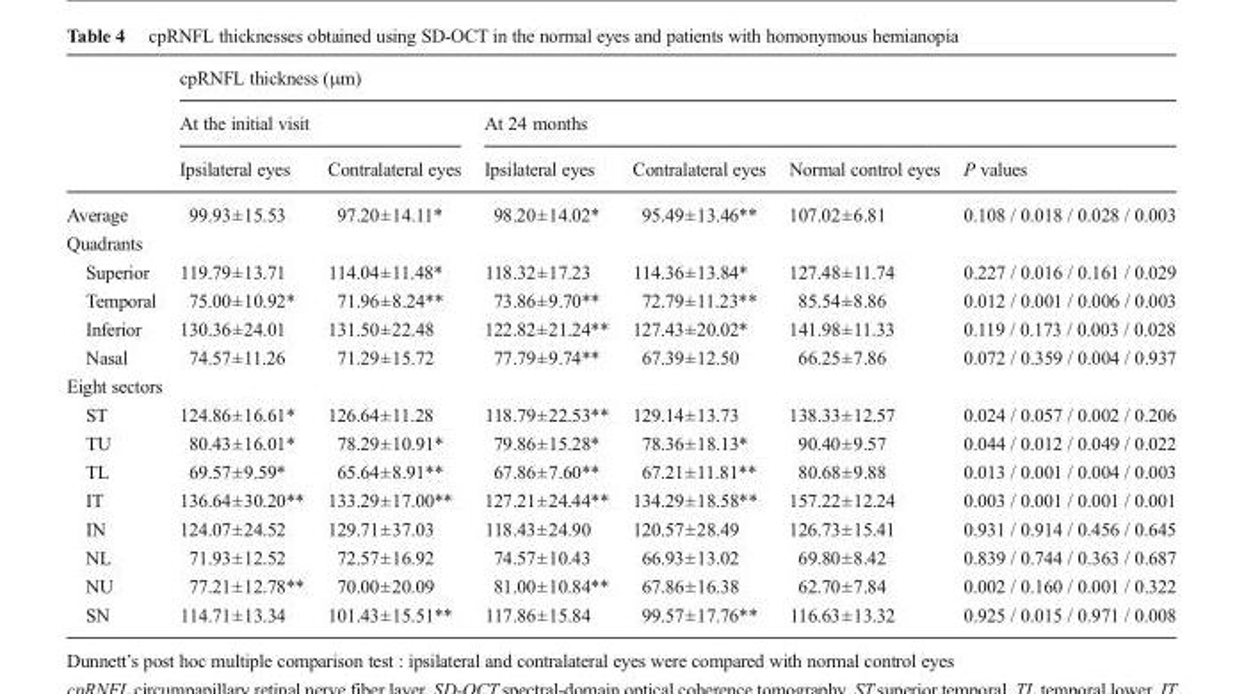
<table><thead><tr><td rowspan="3"></td><td colspan="6">cpRNFL thickness (μm)</td></tr><tr><td colspan="2">At the initial visit</td><td colspan="4">At 24 months</td></tr><tr><td>Ipsilateral eyes</td><td>Contralateral eyes</td><td>Ipsilateral eyes</td><td>Contralateral eyes</td><td>Normal control eyes</td><td>P values</td></tr></thead><tbody><tr><td>Average</td><td>99.93±15.53</td><td>97.20±14.11*</td><td>98.20±14.02*</td><td>95.49±13.46**</td><td>107.02±6.81</td><td>0.108 / 0.018 / 0.028 / 0.003</td></tr><tr><td colspan="7">Quadrants</td></tr><tr><td>Superior</td><td>119.79±13.71</td><td>114.04±11.48*</td><td>118.32±17.23</td><td>114.36±13.84*</td><td>127.48±11.74</td><td>0.227 / 0.016 / 0.161 / 0.029</td></tr><tr><td>Temporal</td><td>75.00±10.92*</td><td>71.96±8.24**</td><td>73.86±9.70**</td><td>72.79±11.23**</td><td>85.54±8.86</td><td>0.012 / 0.001 / 0.006 / 0.003</td></tr><tr><td>Inferior</td><td>130.36±24.01</td><td>131.50±22.48</td><td>122.82±21.24**</td><td>127.43±20.02*</td><td>141.98±11.33</td><td>0.119 / 0.173 / 0.003 / 0.028</td></tr><tr><td>Nasal</td><td>74.57±11.26</td><td>71.29±15.72</td><td>77.79±9.74**</td><td>67.39±12.50</td><td>66.25±7.86</td><td>0.072 / 0.359 / 0.004 / 0.937</td></tr><tr><td colspan="7">Eight sectors</td></tr><tr><td>ST</td><td>124.86±16.61*</td><td>126.64±11.28</td><td>118.79±22.53**</td><td>129.14±13.73</td><td>138.33±12.57</td><td>0.024 / 0.057 / 0.002 / 0.206</td></tr><tr><td>TU</td><td>80.43±16.01*</td><td>78.29±10.91*</td><td>79.86±15.28*</td><td>78.36±18.13*</td><td>90.40±9.57</td><td>0.044 / 0.012 / 0.049 / 0.022</td></tr><tr><td>TL</td><td>69.57±9.59*</td><td>65.64±8.91**</td><td>67.86±7.60**</td><td>67.21±11.81**</td><td>80.68±9.88</td><td>0.013 / 0.001 / 0.004 / 0.003</td></tr><tr><td>IT</td><td>136.64±30.20**</td><td>133.29±17.00**</td><td>127.21±24.44**</td><td>134.29±18.58**</td><td>157.22±12.24</td><td>0.003 / 0.001 / 0.001 / 0.001</td></tr><tr><td>IN</td><td>124.07±24.52</td><td>129.71±37.03</td><td>118.43±24.90</td><td>120.57±28.49</td><td>126.73±15.41</td><td>0.931 / 0.914 / 0.456 / 0.645</td></tr><tr><td>NL</td><td>71.93±12.52</td><td>72.57±16.92</td><td>74.57±10.43</td><td>66.93±13.02</td><td>69.80±8.42</td><td>0.839 / 0.744 / 0.363 / 0.687</td></tr><tr><td>NU</td><td>77.21±12.78**</td><td>70.00±20.09</td><td>81.00±10.84**</td><td>67.86±16.38</td><td>62.70±7.84</td><td>0.002 / 0.160 / 0.001 / 0.322</td></tr><tr><td>SN</td><td>114.71±13.34</td><td>101.43±15.51**</td><td>117.86±15.84</td><td>99.57±17.76**</td><td>116.63±13.32</td><td>0.925 / 0.015 / 0.971 / 0.008</td></tr></tbody></table>